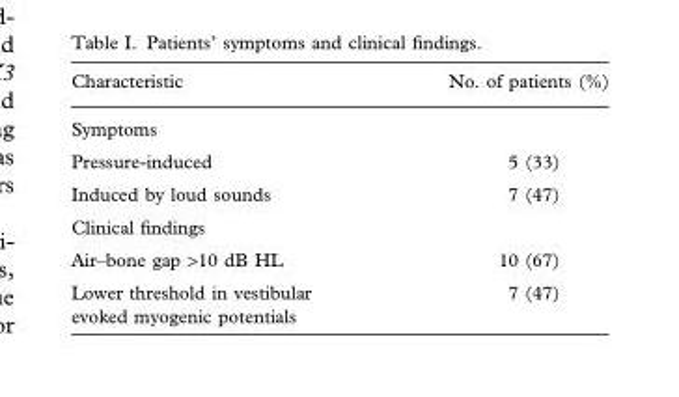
<table><thead><tr><td>Characteristic</td><td>No. of patients (%)</td></tr></thead><tbody><tr><td colspan="2">Symptoms</td></tr><tr><td>Pressure-induced</td><td>5 (33)</td></tr><tr><td>Induced by loud sounds</td><td>7 (47)</td></tr><tr><td colspan="2">Clinical findings</td></tr><tr><td>Air–bone gap &gt;10 dB HL</td><td>10 (67)</td></tr><tr><td>Lower threshold in vestibular evoked myogenic potentials</td><td>7 (47)</td></tr></tbody></table>